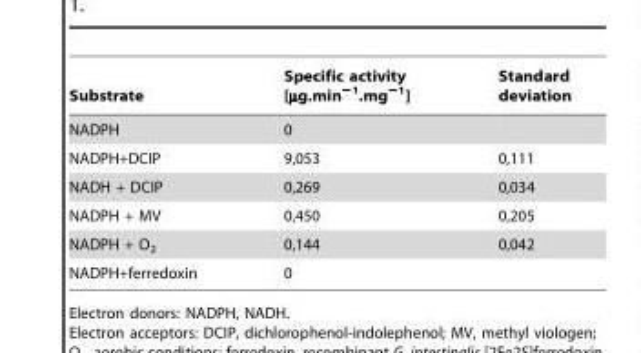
<table><thead><tr><td>Substrate</td><td>Specific activity [µg.min<sup>−1</sup>.mg<sup>−1</sup>]</td><td>Standard deviation</td></tr></thead><tbody><tr><td>NADPH</td><td>0</td><td></td></tr><tr><td>NADPH+DCIP</td><td>9,053</td><td>0,111</td></tr><tr><td>NADH + DCIP</td><td>0,269</td><td>0,034</td></tr><tr><td>NADPH + MV</td><td>0,450</td><td>0,205</td></tr><tr><td>NADPH + O<sub>2</sub></td><td>0,144</td><td>0,042</td></tr><tr><td>NADPH+ferredoxin</td><td>0</td><td></td></tr></tbody></table>